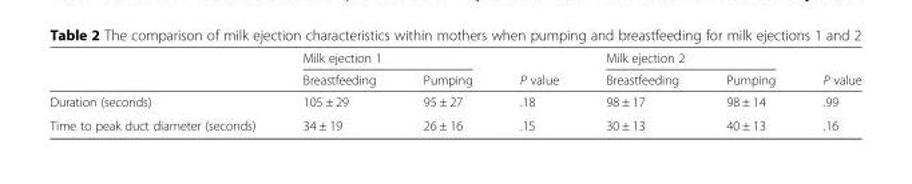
<table><thead><tr><td rowspan="2"></td><td colspan="2">Milk ejection 1</td><td rowspan="2">P value</td><td colspan="2">Milk ejection 2</td><td rowspan="2">P value</td></tr><tr><td>Breastfeeding</td><td>Pumping</td><td>Breastfeeding</td><td>Pumping</td></tr></thead><tbody><tr><td>Duration (seconds)</td><td>105 ± 29</td><td>95 ± 27</td><td>.18</td><td>98 ± 17</td><td>98 ± 14</td><td>.99</td></tr><tr><td>Time to peak duct diameter (seconds)</td><td>34 ± 19</td><td>26 ± 16</td><td>.15</td><td>30 ± 13</td><td>40 ± 13</td><td>.16</td></tr></tbody></table>